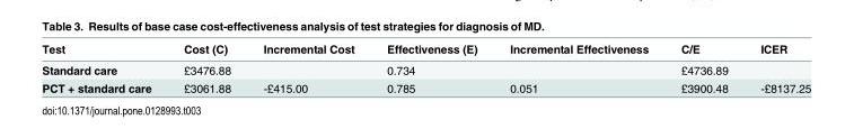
<table><thead><tr><td>Test</td><td>Cost (C)</td><td>Incremental Cost</td><td>Effectiveness (E)</td><td>Incremental Effectiveness</td><td>C/E</td><td>ICER</td></tr></thead><tbody><tr><td>Standard care</td><td>£3476.88</td><td></td><td>0.734</td><td></td><td>£4736.89</td><td></td></tr><tr><td>PCT + standard care</td><td>£3061.88</td><td>-£415.00</td><td>0.785</td><td>0.051</td><td>£3900.48</td><td>-£8137.25</td></tr></tbody></table>